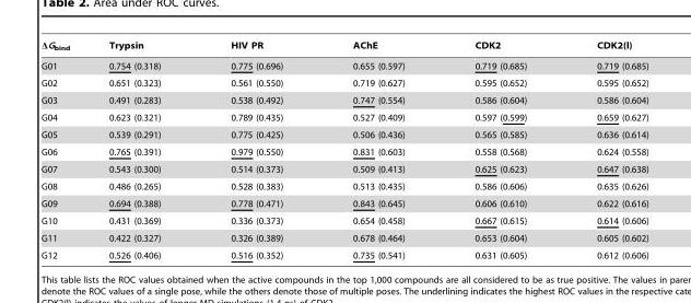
<table><thead><tr><td>ΔG<sub>bind</sub></td><td>Trypsin</td><td>HIV PR</td><td>AChE</td><td>CDK2</td><td>CDK2(l)</td></tr></thead><tbody><tr><td>G01</td><td>0.754 (0.318)</td><td>0.775 (0.696)</td><td>0.655 (0.597)</td><td>0.719 (0.685)</td><td>0.719 (0.685)</td></tr><tr><td>G02</td><td>0.651 (0.323)</td><td>0.561 (0.550)</td><td>0.719 (0.627)</td><td>0.595 (0.652)</td><td>0.595 (0.652)</td></tr><tr><td>G03</td><td>0.491 (0.283)</td><td>0.538 (0.492)</td><td>0.747 (0.554)</td><td>0.586 (0.604)</td><td>0.586 (0.604)</td></tr><tr><td>G04</td><td>0.623 (0.321)</td><td>0.789 (0.435)</td><td>0.527 (0.409)</td><td>0.597 (0.599)</td><td>0.659 (0.627)</td></tr><tr><td>G05</td><td>0.539 (0.291)</td><td>0.775 (0.425)</td><td>0.506 (0.436)</td><td>0.565 (0.585)</td><td>0.636 (0.614)</td></tr><tr><td>G06</td><td>0.765 (0.391)</td><td>0.979 (0.550)</td><td>0.831 (0.603)</td><td>0.558 (0.568)</td><td>0.624 (0.558)</td></tr><tr><td>G07</td><td>0.543 (0.300)</td><td>0.514 (0.373)</td><td>0.509 (0.413)</td><td>0.625 (0.623)</td><td>0.647 (0.638)</td></tr><tr><td>G08</td><td>0.486 (0.265)</td><td>0.528 (0.383)</td><td>0.513 (0.435)</td><td>0.586 (0.606)</td><td>0.635 (0.626)</td></tr><tr><td>G09</td><td>0.694 (0.388)</td><td>0.778 (0.471)</td><td>0.843 (0.645)</td><td>0.606 (0.610)</td><td>0.622 (0.616)</td></tr><tr><td>G10</td><td>0.431 (0.369)</td><td>0.336 (0.373)</td><td>0.654 (0.458)</td><td>0.667 (0.615)</td><td>0.614 (0.606)</td></tr><tr><td>G11</td><td>0.422 (0.327)</td><td>0.326 (0.389)</td><td>0.678 (0.464)</td><td>0.653 (0.604)</td><td>0.605 (0.602)</td></tr><tr><td>G12</td><td>0.526 (0.406)</td><td>0.516 (0.352)</td><td>0.735 (0.541)</td><td>0.631 (0.605)</td><td>0.612 (0.606)</td></tr></tbody></table>